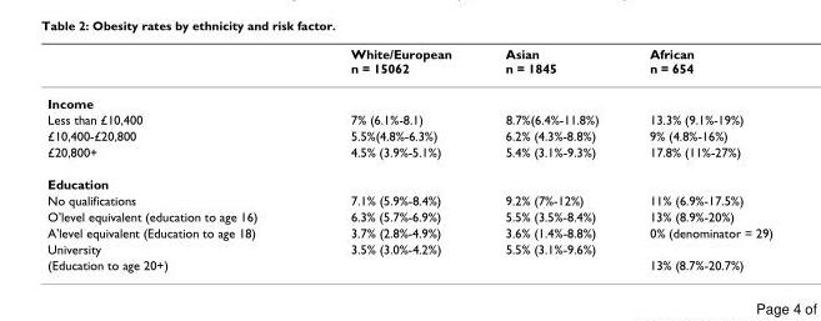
<table><thead><tr><td></td><td>White/European n = 15062</td><td>Asian n = 1845</td><td>African n = 654</td></tr></thead><tbody><tr><td colspan="4">Income</td></tr><tr><td>Less than £10,400</td><td>7% (6.1%-8.1)</td><td>8.7%(6.4%-11.8%)</td><td>13.3% (9.1%-19%)</td></tr><tr><td>£10,400-£20,800</td><td>5.5%(4.8%-6.3%)</td><td>6.2% (4.3%-8.8%)</td><td>9% (4.8%-16%)</td></tr><tr><td>£20,800+</td><td>4.5% (3.9%-5.1%)</td><td>5.4% (3.1%-9.3%)</td><td>17.8% (11%-27%)</td></tr><tr><td colspan="4">Education</td></tr><tr><td>No qualifications</td><td>7.1% (5.9%-8.4%)</td><td>9.2% (7%-12%)</td><td>11% (6.9%-17.5%)</td></tr><tr><td>O&#x27;level equivalent (education to age 16)</td><td>6.3% (5.7%-6.9%)</td><td>5.5% (3.5%-8.4%)</td><td>13% (8.9%-20%)</td></tr><tr><td>A&#x27;level equivalent (Education to age 18)</td><td>3.7% (2.8%-4.9%)</td><td>3.6% (1.4%-8.8%)</td><td>0% (denominator = 29)</td></tr><tr><td>University</td><td>3.5% (3.0%-4.2%)</td><td>5.5% (3.1%-9.6%)</td><td></td></tr><tr><td>(Education to age 20+)</td><td></td><td></td><td>13% (8.7%-20.7%)</td></tr></tbody></table>